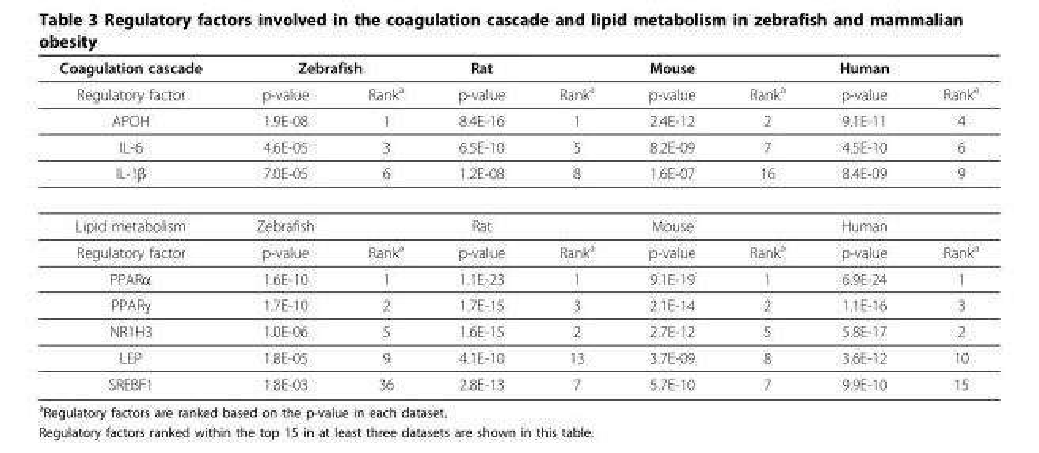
<table><thead><tr><td rowspan="2">Coagulation cascade Regulatory factor</td><td colspan="2">Zebrafish</td><td rowspan="2">Rat p-value</td><td rowspan="2">Ranka</td><td rowspan="2">Mouse p-value</td><td rowspan="2">Ranka</td><td rowspan="2">Human p-value</td><td rowspan="2">Ranka</td></tr><tr><td>p-value</td><td>Ranka</td></tr></thead><tbody><tr><td>APOH</td><td>1.9E-08</td><td>1</td><td>8.4E-16</td><td>1</td><td>2.4E-12</td><td>2</td><td>9.1E-11</td><td>4</td></tr><tr><td>IL-6</td><td>4.6E-05</td><td>3</td><td>6.5E-10</td><td>5</td><td>8.2E-09</td><td>7</td><td>4.5E-10</td><td>6</td></tr><tr><td>IL-1β</td><td>7.0E-05</td><td>6</td><td>1.2E-08</td><td>8</td><td>1.6E-07</td><td>16</td><td>8.4E-09</td><td>9</td></tr><tr><td>Lipid metabolism</td><td>Zebrafish</td><td></td><td>Rat</td><td></td><td>Mouse</td><td></td><td>Human</td><td></td></tr><tr><td>Regulatory factor</td><td>p-value</td><td>Ranka</td><td>p-value</td><td>Ranka</td><td>p-value</td><td>Ranka</td><td>p-value</td><td>Ranka</td></tr><tr><td>PPARα</td><td>1.6E-10</td><td>1</td><td>1.1E-23</td><td>1</td><td>9.1E-19</td><td>1</td><td>6.9E-24</td><td>1</td></tr><tr><td>PPARγ</td><td>1.7E-10</td><td>2</td><td>1.7E-15</td><td>3</td><td>2.1E-14</td><td>2</td><td>1.1E-16</td><td>3</td></tr><tr><td>NR1H3</td><td>1.0E-06</td><td>5</td><td>1.6E-15</td><td>2</td><td>2.7E-12</td><td>5</td><td>5.8E-17</td><td>2</td></tr><tr><td>LEP</td><td>1.8E-05</td><td>9</td><td>4.1E-10</td><td>13</td><td>3.7E-09</td><td>8</td><td>3.6E-12</td><td>10</td></tr><tr><td>SREBF1</td><td>1.8E-03</td><td>36</td><td>2.8E-13</td><td>7</td><td>5.7E-10</td><td>7</td><td>9.9E-10</td><td>15</td></tr></tbody></table>